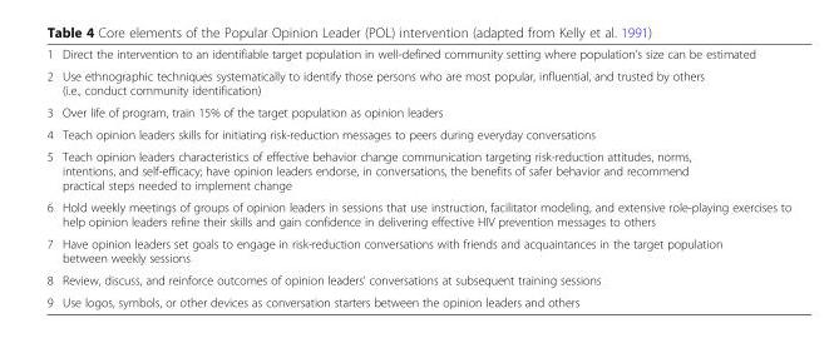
<table><tbody><tr><td>1</td><td>Direct the intervention to an identifiable target population in well-defined community setting where population’s size can be estimated</td></tr><tr><td>2</td><td>Use ethnographic techniques systematically to identify those persons who are most popular, influential, and trusted by others (i.e., conduct community identification)</td></tr><tr><td>3</td><td>Over life of program, train 15% of the target population as opinion leaders</td></tr><tr><td>4</td><td>Teach opinion leaders skills for initiating risk-reduction messages to peers during everyday conversations</td></tr><tr><td>5</td><td>Teach opinion leaders characteristics of effective behavior change communication targeting risk-reduction attitudes, norms, intentions, and self-efficacy; have opinion leaders endorse, in conversations, the benefits of safer behavior and recommend practical steps needed to implement change</td></tr><tr><td>6</td><td>Hold weekly meetings of groups of opinion leaders in sessions that use instruction, facilitator modeling, and extensive role-playing exercises to help opinion leaders refine their skills and gain confidence in delivering effective HIV prevention messages to others</td></tr><tr><td>7</td><td>Have opinion leaders set goals to engage in risk-reduction conversations with friends and acquaintances in the target population between weekly sessions</td></tr><tr><td>8</td><td>Review, discuss, and reinforce outcomes of opinion leaders’ conversations at subsequent training sessions</td></tr><tr><td>9</td><td>Use logos, symbols, or other devices as conversation starters between the opinion leaders and others</td></tr></tbody></table>